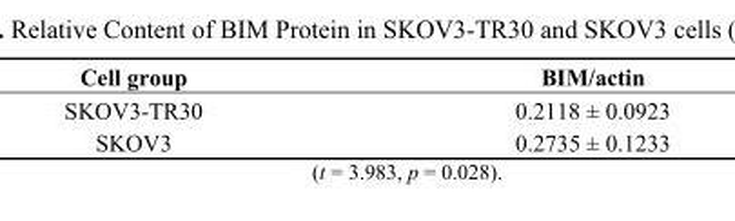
<table><thead><tr><td>Cell group</td><td>BIM/actin</td></tr></thead><tbody><tr><td>SKOV3-TR30</td><td>0.2118 ± 0.0923</td></tr><tr><td>SKOV3</td><td>0.2735 ± 0.1233</td></tr></tbody></table>